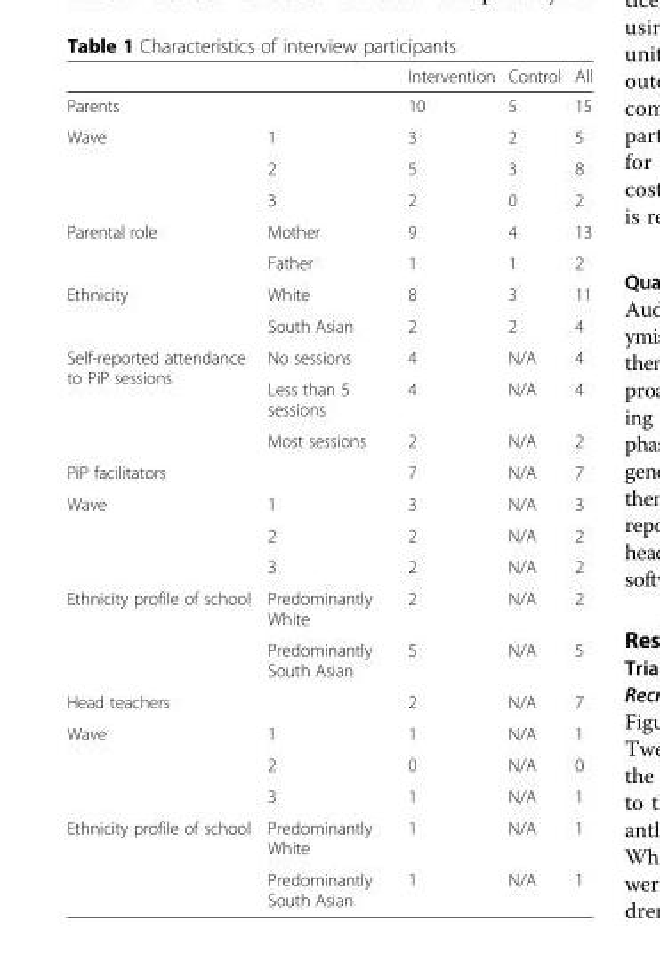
<table><thead><tr><td></td><td></td><td>Intervention</td><td>Control</td><td>All</td></tr></thead><tbody><tr><td colspan="2">Parents</td><td>10</td><td>5</td><td>15</td></tr><tr><td rowspan="3">Wave</td><td>1</td><td>3</td><td>2</td><td>5</td></tr><tr><td>2</td><td>5</td><td>3</td><td>8</td></tr><tr><td>3</td><td>2</td><td>0</td><td>2</td></tr><tr><td rowspan="2">Parental role</td><td>Mother</td><td>9</td><td>4</td><td>13</td></tr><tr><td>Father</td><td>1</td><td>1</td><td>2</td></tr><tr><td rowspan="2">Ethnicity</td><td>White</td><td>8</td><td>3</td><td>11</td></tr><tr><td>South Asian</td><td>2</td><td>2</td><td>4</td></tr><tr><td rowspan="3">Self-reported attendance to PiP sessions</td><td>No sessions</td><td>4</td><td>N/A</td><td>4</td></tr><tr><td>Less than 5 sessions</td><td>4</td><td>N/A</td><td>4</td></tr><tr><td>Most sessions</td><td>2</td><td>N/A</td><td>2</td></tr><tr><td colspan="2">PiP facilitators</td><td>7</td><td>N/A</td><td>7</td></tr><tr><td rowspan="3">Wave</td><td>1</td><td>3</td><td>N/A</td><td>3</td></tr><tr><td>2</td><td>2</td><td>N/A</td><td>2</td></tr><tr><td>3</td><td>2</td><td>N/A</td><td>2</td></tr><tr><td rowspan="2">Ethnicity profile of school</td><td>Predominantly White</td><td>2</td><td>N/A</td><td>2</td></tr><tr><td>Predominantly South Asian</td><td>5</td><td>N/A</td><td>5</td></tr><tr><td colspan="2">Head teachers</td><td>2</td><td>N/A</td><td>7</td></tr><tr><td rowspan="3">Wave</td><td>1</td><td>1</td><td>N/A</td><td>1</td></tr><tr><td>2</td><td>0</td><td>N/A</td><td>0</td></tr><tr><td>3</td><td>1</td><td>N/A</td><td>1</td></tr><tr><td rowspan="2">Ethnicity profile of school</td><td>Predominantly White</td><td>1</td><td>N/A</td><td>1</td></tr><tr><td>Predominantly South Asian</td><td>1</td><td>N/A</td><td>1</td></tr></tbody></table>